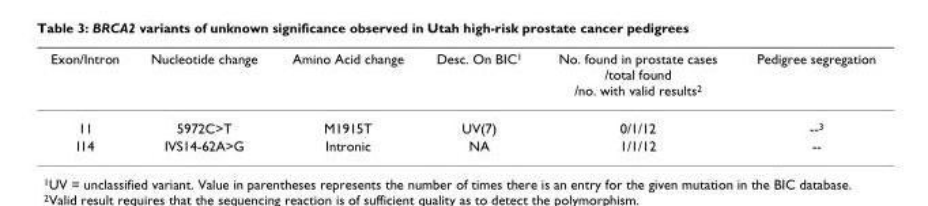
<table><thead><tr><td>Exon/Intron</td><td>Nucleotide change</td><td>Amino Acid change</td><td>Desc. On BIC<sup>1</sup></td><td>No. found in prostate cases /total found /no. with valid results<sup>2</sup></td><td>Pedigree segregation</td></tr></thead><tbody><tr><td>11</td><td>5972C&gt;T</td><td>M1915T</td><td>UV(7)</td><td>0/1/12</td><td>--<sup>3</sup></td></tr><tr><td>I14</td><td>IVS14-62A&gt;G</td><td>Intronic</td><td>NA</td><td>1/1/12</td><td>--</td></tr></tbody></table>